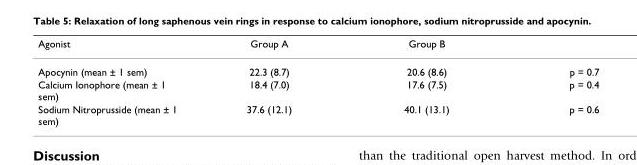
<table><thead><tr><td>Agonist</td><td>Group A</td><td>Group B</td><td></td></tr></thead><tbody><tr><td>Apocynin (mean ± 1 sem)</td><td>22.3 (8.7)</td><td>20.6 (8.6)</td><td>p = 0.7</td></tr><tr><td>Calcium Ionophore (mean ± 1 sem)</td><td>18.4 (7.0)</td><td>17.6 (7.5)</td><td>p = 0.4</td></tr><tr><td>Sodium Nitroprusside (mean ± 1 sem)</td><td>37.6 (12.1)</td><td>40.1 (13.1)</td><td>p = 0.6</td></tr></tbody></table>